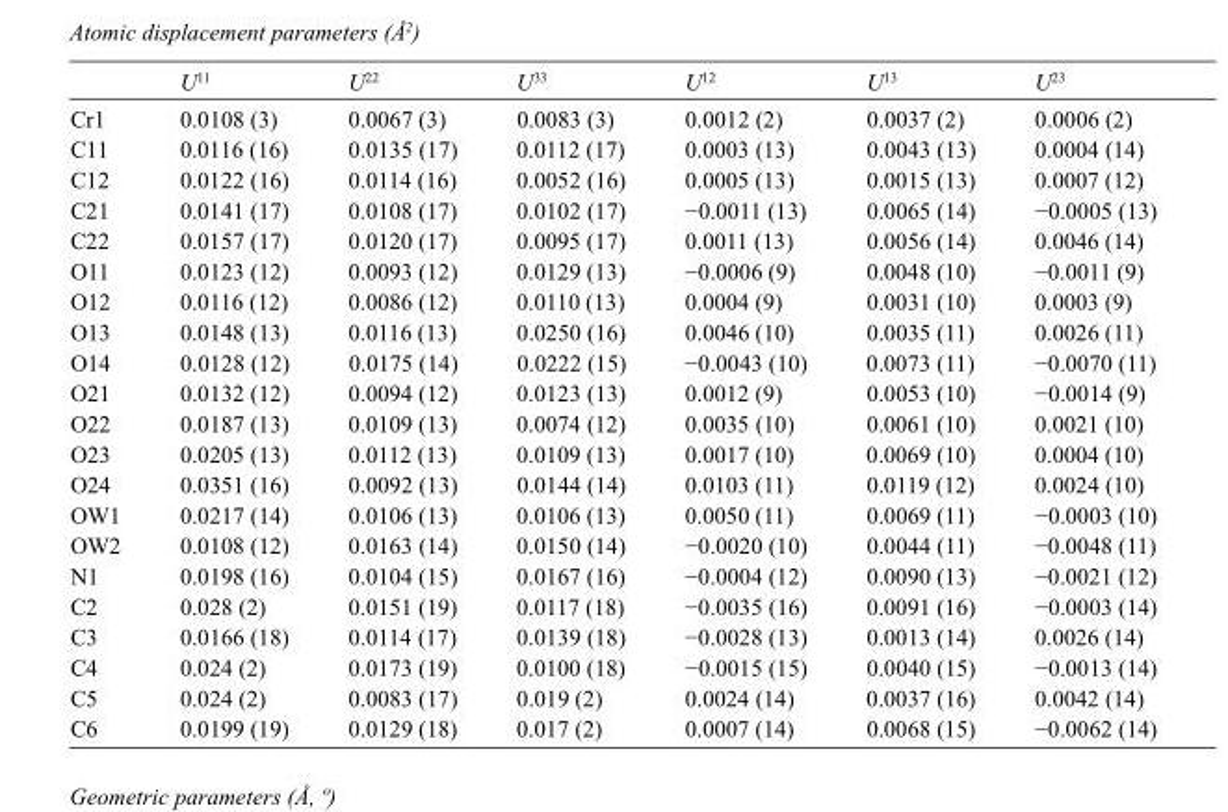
<table><thead><tr><td></td><td>U<sup>11</sup></td><td>U<sup>22</sup></td><td>U<sup>33</sup></td><td>U<sup>12</sup></td><td>U<sup>13</sup></td><td>U<sup>23</sup></td></tr></thead><tbody><tr><td>Cr1</td><td>0.0108 (3)</td><td>0.0067 (3)</td><td>0.0083 (3)</td><td>0.0012 (2)</td><td>0.0037 (2)</td><td>0.0006 (2)</td></tr><tr><td>C11</td><td>0.0116 (16)</td><td>0.0135 (17)</td><td>0.0112 (17)</td><td>0.0003 (13)</td><td>0.0043 (13)</td><td>0.0004 (14)</td></tr><tr><td>C12</td><td>0.0122 (16)</td><td>0.0114 (16)</td><td>0.0052 (16)</td><td>0.0005 (13)</td><td>0.0015 (13)</td><td>0.0007 (12)</td></tr><tr><td>C21</td><td>0.0141 (17)</td><td>0.0108 (17)</td><td>0.0102 (17)</td><td>−0.0011 (13)</td><td>0.0065 (14)</td><td>−0.0005 (13)</td></tr><tr><td>C22</td><td>0.0157 (17)</td><td>0.0120 (17)</td><td>0.0095 (17)</td><td>0.0011 (13)</td><td>0.0056 (14)</td><td>0.0046 (14)</td></tr><tr><td>O11</td><td>0.0123 (12)</td><td>0.0093 (12)</td><td>0.0129 (13)</td><td>−0.0006 (9)</td><td>0.0048 (10)</td><td>−0.0011 (9)</td></tr><tr><td>O12</td><td>0.0116 (12)</td><td>0.0086 (12)</td><td>0.0110 (13)</td><td>0.0004 (9)</td><td>0.0031 (10)</td><td>0.0003 (9)</td></tr><tr><td>O13</td><td>0.0148 (13)</td><td>0.0116 (13)</td><td>0.0250 (16)</td><td>0.0046 (10)</td><td>0.0035 (11)</td><td>0.0026 (11)</td></tr><tr><td>O14</td><td>0.0128 (12)</td><td>0.0175 (14)</td><td>0.0222 (15)</td><td>−0.0043 (10)</td><td>0.0073 (11)</td><td>−0.0070 (11)</td></tr><tr><td>O21</td><td>0.0132 (12)</td><td>0.0094 (12)</td><td>0.0123 (13)</td><td>0.0012 (9)</td><td>0.0053 (10)</td><td>−0.0014 (9)</td></tr><tr><td>O22</td><td>0.0187 (13)</td><td>0.0109 (13)</td><td>0.0074 (12)</td><td>0.0035 (10)</td><td>0.0061 (10)</td><td>0.0021 (10)</td></tr><tr><td>O23</td><td>0.0205 (13)</td><td>0.0112 (13)</td><td>0.0109 (13)</td><td>0.0017 (10)</td><td>0.0069 (10)</td><td>0.0004 (10)</td></tr><tr><td>O24</td><td>0.0351 (16)</td><td>0.0092 (13)</td><td>0.0144 (14)</td><td>0.0103 (11)</td><td>0.0119 (12)</td><td>0.0024 (10)</td></tr><tr><td>OW1</td><td>0.0217 (14)</td><td>0.0106 (13)</td><td>0.0106 (13)</td><td>0.0050 (11)</td><td>0.0069 (11)</td><td>−0.0003 (10)</td></tr><tr><td>OW2</td><td>0.0108 (12)</td><td>0.0163 (14)</td><td>0.0150 (14)</td><td>−0.0020 (10)</td><td>0.0044 (11)</td><td>−0.0048 (11)</td></tr><tr><td>N1</td><td>0.0198 (16)</td><td>0.0104 (15)</td><td>0.0167 (16)</td><td>−0.0004 (12)</td><td>0.0090 (13)</td><td>−0.0021 (12)</td></tr><tr><td>C2</td><td>0.028 (2)</td><td>0.0151 (19)</td><td>0.0117 (18)</td><td>−0.0035 (16)</td><td>0.0091 (16)</td><td>−0.0003 (14)</td></tr><tr><td>C3</td><td>0.0166 (18)</td><td>0.0114 (17)</td><td>0.0139 (18)</td><td>−0.0028 (13)</td><td>0.0013 (14)</td><td>0.0026 (14)</td></tr><tr><td>C4</td><td>0.024 (2)</td><td>0.0173 (19)</td><td>0.0100 (18)</td><td>−0.0015 (15)</td><td>0.0040 (15)</td><td>−0.0013 (14)</td></tr><tr><td>C5</td><td>0.024 (2)</td><td>0.0083 (17)</td><td>0.019 (2)</td><td>0.0024 (14)</td><td>0.0037 (16)</td><td>0.0042 (14)</td></tr><tr><td>C6</td><td>0.0199 (19)</td><td>0.0129 (18)</td><td>0.017 (2)</td><td>0.0007 (14)</td><td>0.0068 (15)</td><td>−0.0062 (14)</td></tr></tbody></table>